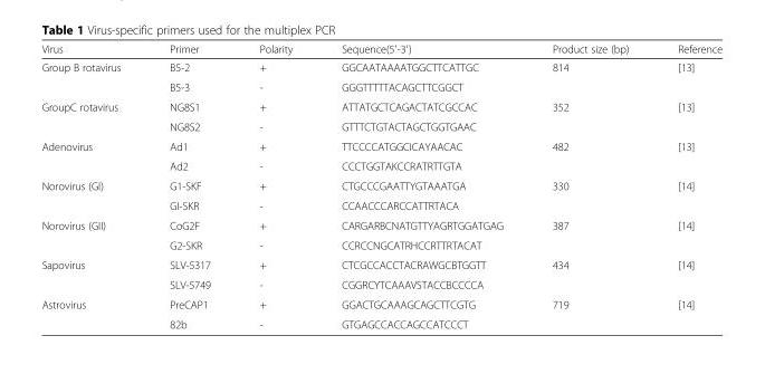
<table><thead><tr><td>Virus</td><td>Primer</td><td>Polarity</td><td>Sequence(5′-3′)</td><td>Product size (bp)</td><td>Reference</td></tr></thead><tbody><tr><td rowspan="2">Group B rotavirus</td><td>B5-2</td><td>+</td><td>GGCAATAAAATGGCTTCATTGC</td><td rowspan="2">814</td><td rowspan="2">[13]</td></tr><tr><td>B5-3</td><td>-</td><td>GGGTTTTTACAGCTTCGGCT</td></tr><tr><td rowspan="2">GroupC rotavirus</td><td>NG8S1</td><td>+</td><td>ATTATGCTCAGACTATCGCCAC</td><td rowspan="2">352</td><td rowspan="2">[13]</td></tr><tr><td>NG8S2</td><td>-</td><td>GTTTCTGTACTAGCTGGTGAAC</td></tr><tr><td rowspan="2">Adenovirus</td><td>Ad1</td><td>+</td><td>TTCCCCATGGCICAYAACAC</td><td rowspan="2">482</td><td rowspan="2">[13]</td></tr><tr><td>Ad2</td><td>-</td><td>CCCTGGTAKCCRATRTTGTA</td></tr><tr><td rowspan="2">Norovirus (GI)</td><td>G1-SKF</td><td>+</td><td>CTGCCCGAATTYGTAAATGA</td><td rowspan="2">330</td><td rowspan="2">[14]</td></tr><tr><td>GI-SKR</td><td>-</td><td>CCAACCCARCCATTRTACA</td></tr><tr><td rowspan="2">Norovirus (GII)</td><td>CoG2F</td><td>+</td><td>CARGARBCNATGTTYAGRTGGATGAG</td><td rowspan="2">387</td><td rowspan="2">[14]</td></tr><tr><td>G2-SKR</td><td>-</td><td>CCRCCNGCATRHCCRTTRTACAT</td></tr><tr><td rowspan="2">Sapovirus</td><td>SLV-5317</td><td>+</td><td>CTCGCCACCTACRAWGCBTGGTT</td><td rowspan="2">434</td><td rowspan="2">[14]</td></tr><tr><td>SLV-5749</td><td>-</td><td>CGGRCYTCAAAVSTACCBCCCCA</td></tr><tr><td rowspan="2">Astrovirus</td><td>PreCAP1</td><td>+</td><td>GGACTGCAAAGCAGCTTCGTG</td><td rowspan="2">719</td><td rowspan="2">[14]</td></tr><tr><td>82b</td><td>-</td><td>GTGAGCCACCAGCCATCCCT</td></tr></tbody></table>